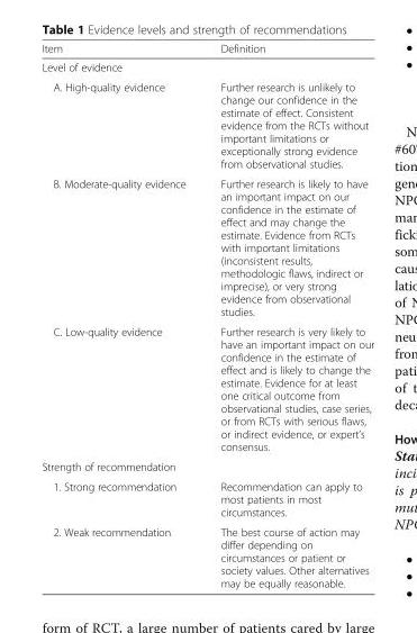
<table><thead><tr><td>Item</td><td>Definition</td></tr></thead><tbody><tr><td colspan="2">Level of evidence</td></tr><tr><td>A. High-quality evidence</td><td>Further research is unlikely to change our confidence in the estimate of effect. Consistent evidence from the RCTs without important limitations or exceptionally strong evidence from observational studies.</td></tr><tr><td>B. Moderate-quality evidence</td><td>Further research is likely to have an important impact on our confidence in the estimate of effect and may change the estimate. Evidence from RCTs with important limitations (inconsistent results, methodologic flaws, indirect or imprecise), or very strong evidence from observational studies.</td></tr><tr><td>C. Low-quality evidence</td><td>Further research is very likely to have an important impact on our confidence in the estimate of effect and is likely to change the estimate. Evidence for at least one critical outcome from observational studies, case series, or from RCTs with serious flaws, or indirect evidence, or expert’s consensus.</td></tr><tr><td colspan="2">Strength of recommendation</td></tr><tr><td>1. Strong recommendation</td><td>Recommendation can apply to most patients in most circumstances.</td></tr><tr><td>2. Weak recommendation</td><td>The best course of action may differ depending on circumstances or patient or society values. Other alternatives may be equally reasonable.</td></tr></tbody></table>